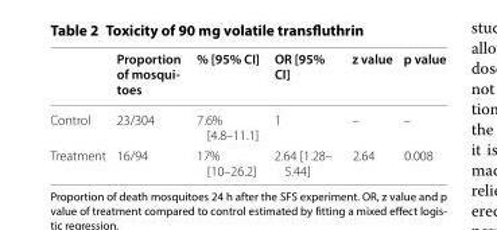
<table><thead><tr><td></td><td>Proportion of mosqui‑ toes</td><td>% [95% CI]</td><td>OR [95% CI]</td><td>z value</td><td>p value</td></tr></thead><tbody><tr><td>Control</td><td>23/304</td><td>7.6% [4.8–11.1]</td><td>1</td><td>–</td><td>–</td></tr><tr><td>Treatment</td><td>16/94</td><td>17% [10–26.2]</td><td>2.64 [1.28– 5.44]</td><td>2.64</td><td>0.008</td></tr></tbody></table>